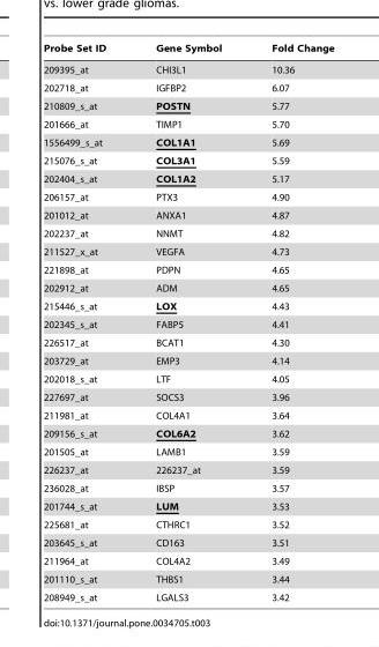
<table><thead><tr><td>Probe Set ID</td><td>Gene Symbol</td><td>Fold Change</td></tr></thead><tbody><tr><td>209395_at</td><td>CHI3L1</td><td>10.36</td></tr><tr><td>202718_at</td><td>IGFBP2</td><td>6.07</td></tr><tr><td>210809_s_at</td><td>POSTN</td><td>5.77</td></tr><tr><td>201666_at</td><td>TIMP1</td><td>5.70</td></tr><tr><td>1556499_s_at</td><td>COL1A1</td><td>5.69</td></tr><tr><td>215076_s_at</td><td>COL3A1</td><td>5.59</td></tr><tr><td>202404_s_at</td><td>COL1A2</td><td>5.17</td></tr><tr><td>206157_at</td><td>PTX3</td><td>4.90</td></tr><tr><td>201012_at</td><td>ANXA1</td><td>4.87</td></tr><tr><td>202237_at</td><td>NNMT</td><td>4.82</td></tr><tr><td>211527_x_at</td><td>VEGFA</td><td>4.73</td></tr><tr><td>221898_at</td><td>PDPN</td><td>4.65</td></tr><tr><td>202912_at</td><td>ADM</td><td>4.65</td></tr><tr><td>215446_s_at</td><td>LOX</td><td>4.43</td></tr><tr><td>202345_s_at</td><td>FABP5</td><td>4.41</td></tr><tr><td>226517_at</td><td>BCAT1</td><td>4.30</td></tr><tr><td>203729_at</td><td>EMP3</td><td>4.14</td></tr><tr><td>202018_s_at</td><td>LTF</td><td>4.05</td></tr><tr><td>227697_at</td><td>SOCS3</td><td>3.96</td></tr><tr><td>211981_at</td><td>COL4A1</td><td>3.64</td></tr><tr><td>209156_s_at</td><td>COL6A2</td><td>3.62</td></tr><tr><td>201505_at</td><td>LAMB1</td><td>3.59</td></tr><tr><td>226237_at</td><td>226237_at</td><td>3.59</td></tr><tr><td>236028_at</td><td>IBSP</td><td>3.57</td></tr><tr><td>201744_s_at</td><td>LUM</td><td>3.53</td></tr><tr><td>225681_at</td><td>CTHRC1</td><td>3.52</td></tr><tr><td>203645_s_at</td><td>CD163</td><td>3.51</td></tr><tr><td>211964_at</td><td>COL4A2</td><td>3.49</td></tr><tr><td>201110_s_at</td><td>THBS1</td><td>3.44</td></tr><tr><td>208949_s_at</td><td>LGALS3</td><td>3.42</td></tr></tbody></table>